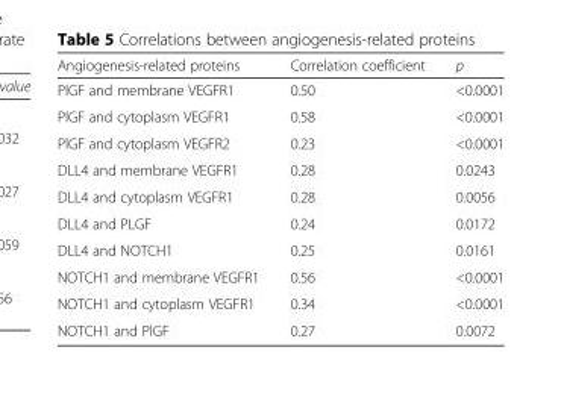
<table><thead><tr><td>Angiogenesis-related proteins</td><td>Correlation coefficient</td><td>p</td></tr></thead><tbody><tr><td>PlGF and membrane VEGFR1</td><td>0.50</td><td>&lt;0.0001</td></tr><tr><td>PlGF and cytoplasm VEGFR1</td><td>0.58</td><td>&lt;0.0001</td></tr><tr><td>PlGF and cytoplasm VEGFR2</td><td>0.23</td><td>&lt;0.0001</td></tr><tr><td>DLL4 and membrane VEGFR1</td><td>0.28</td><td>0.0243</td></tr><tr><td>DLL4 and cytoplasm VEGFR1</td><td>0.28</td><td>0.0056</td></tr><tr><td>DLL4 and PLGF</td><td>0.24</td><td>0.0172</td></tr><tr><td>DLL4 and NOTCH1</td><td>0.25</td><td>0.0161</td></tr><tr><td>NOTCH1 and membrane VEGFR1</td><td>0.56</td><td>&lt;0.0001</td></tr><tr><td>NOTCH1 and cytoplasm VEGFR1</td><td>0.34</td><td>&lt;0.0001</td></tr><tr><td>NOTCH1 and PlGF</td><td>0.27</td><td>0.0072</td></tr></tbody></table>